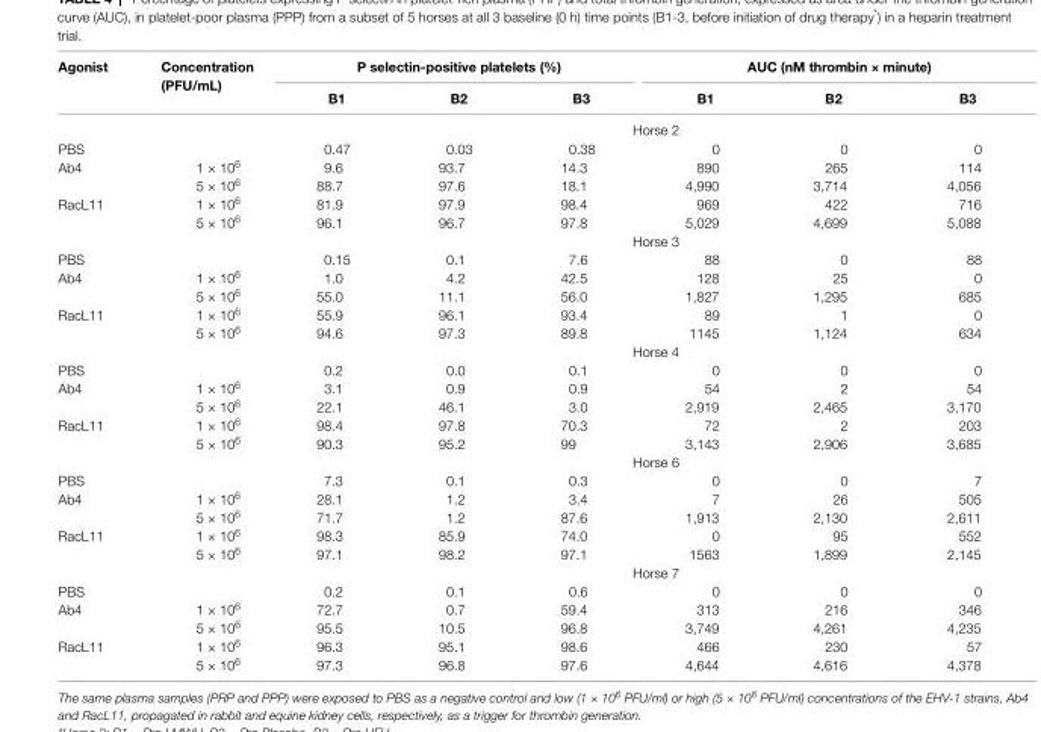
<table><thead><tr><td rowspan="2">agonist</td><td rowspan="2">concentration (PFu/ml)</td><td colspan="3">P selectin-positive platelets (%)</td><td colspan="3">auc (nM thrombin × minute)</td></tr><tr><td>B1</td><td>B2</td><td>B3</td><td>B1</td><td>B2</td><td>B3</td></tr></thead><tbody><tr><td></td><td></td><td colspan="6">Horse 2</td></tr><tr><td>PBS</td><td></td><td>0.47</td><td>0.03</td><td>0.38</td><td>0</td><td>0</td><td>0</td></tr><tr><td rowspan="2">Ab4</td><td>1 × 10<sup>6</sup></td><td>9.6</td><td>93.7</td><td>14.3</td><td>890</td><td>265</td><td>114</td></tr><tr><td>5 × 10<sup>6</sup></td><td>88.7</td><td>97.6</td><td>18.1</td><td>4,990</td><td>3,714</td><td>4,056</td></tr><tr><td rowspan="3">RacL11</td><td>1 × 10<sup>6</sup></td><td>81.9</td><td>97.9</td><td>98.4</td><td>969</td><td>422</td><td>716</td></tr><tr><td>5 × 10<sup>6</sup></td><td>96.1</td><td>96.7</td><td>97.8</td><td>5,029</td><td>4,699</td><td>5,088</td></tr><tr><td></td><td colspan="6">Horse 3</td></tr><tr><td>PBS</td><td></td><td>0.15</td><td>0.1</td><td>7.6</td><td>88</td><td>0</td><td>88</td></tr><tr><td rowspan="2">Ab4</td><td>1 × 10<sup>6</sup></td><td>1.0</td><td>4.2</td><td>42.5</td><td>128</td><td>25</td><td>0</td></tr><tr><td>5 × 10<sup>6</sup></td><td>55.0</td><td>11.1</td><td>56.0</td><td>1,827</td><td>1,295</td><td>685</td></tr><tr><td rowspan="3">RacL11</td><td>1 × 10<sup>6</sup></td><td>55.9</td><td>96.1</td><td>93.4</td><td>89</td><td>1</td><td>0</td></tr><tr><td>5 × 10<sup>6</sup></td><td>94.6</td><td>97.3</td><td>89.8</td><td>1145</td><td>1,124</td><td>634</td></tr><tr><td></td><td colspan="6">Horse 4</td></tr><tr><td>PBS</td><td></td><td>0.2</td><td>0.0</td><td>0.1</td><td>0</td><td>0</td><td>0</td></tr><tr><td rowspan="2">Ab4</td><td>1 × 10<sup>6</sup></td><td>3.1</td><td>0.9</td><td>0.9</td><td>54</td><td>2</td><td>54</td></tr><tr><td>5 × 10<sup>6</sup></td><td>22.1</td><td>46.1</td><td>3.0</td><td>2,919</td><td>2,465</td><td>3,170</td></tr><tr><td rowspan="3">RacL11</td><td>1 × 10<sup>6</sup></td><td>98.4</td><td>97.8</td><td>70.3</td><td>72</td><td>2</td><td>203</td></tr><tr><td>5 × 10<sup>6</sup></td><td>90.3</td><td>95.2</td><td>99</td><td>3,143</td><td>2,906</td><td>3,685</td></tr><tr><td></td><td colspan="6">Horse 6</td></tr><tr><td>PBS</td><td></td><td>7.3</td><td>0.1</td><td>0.3</td><td>0</td><td>0</td><td>7</td></tr><tr><td rowspan="2">Ab4</td><td>1 × 10<sup>6</sup></td><td>28.1</td><td>1.2</td><td>3.4</td><td>7</td><td>26</td><td>505</td></tr><tr><td>5 × 10<sup>6</sup></td><td>71.7</td><td>1.2</td><td>87.6</td><td>1,913</td><td>2,130</td><td>2,611</td></tr><tr><td rowspan="3">RacL11</td><td>1 × 10<sup>6</sup></td><td>98.3</td><td>85.9</td><td>74.0</td><td>0</td><td>95</td><td>552</td></tr><tr><td>5 × 10<sup>6</sup></td><td>97.1</td><td>98.2</td><td>97.1</td><td>1563</td><td>1,899</td><td>2,145</td></tr><tr><td></td><td colspan="6">Horse 7</td></tr><tr><td>PBS</td><td></td><td>0.2</td><td>0.1</td><td>0.6</td><td>0</td><td>0</td><td>0</td></tr><tr><td rowspan="2">Ab4</td><td>1 × 10<sup>6</sup></td><td>72.7</td><td>0.7</td><td>59.4</td><td>313</td><td>216</td><td>346</td></tr><tr><td>5 × 10<sup>6</sup></td><td>95.5</td><td>10.5</td><td>96.8</td><td>3,749</td><td>4,261</td><td>4,235</td></tr><tr><td rowspan="2">RacL11</td><td>1 × 10<sup>6</sup></td><td>96.3</td><td>95.1</td><td>98.6</td><td>466</td><td>230</td><td>57</td></tr><tr><td>5 × 10<sup>6</sup></td><td>97.3</td><td>96.8</td><td>97.6</td><td>4,644</td><td>4,616</td><td>4,378</td></tr></tbody></table>